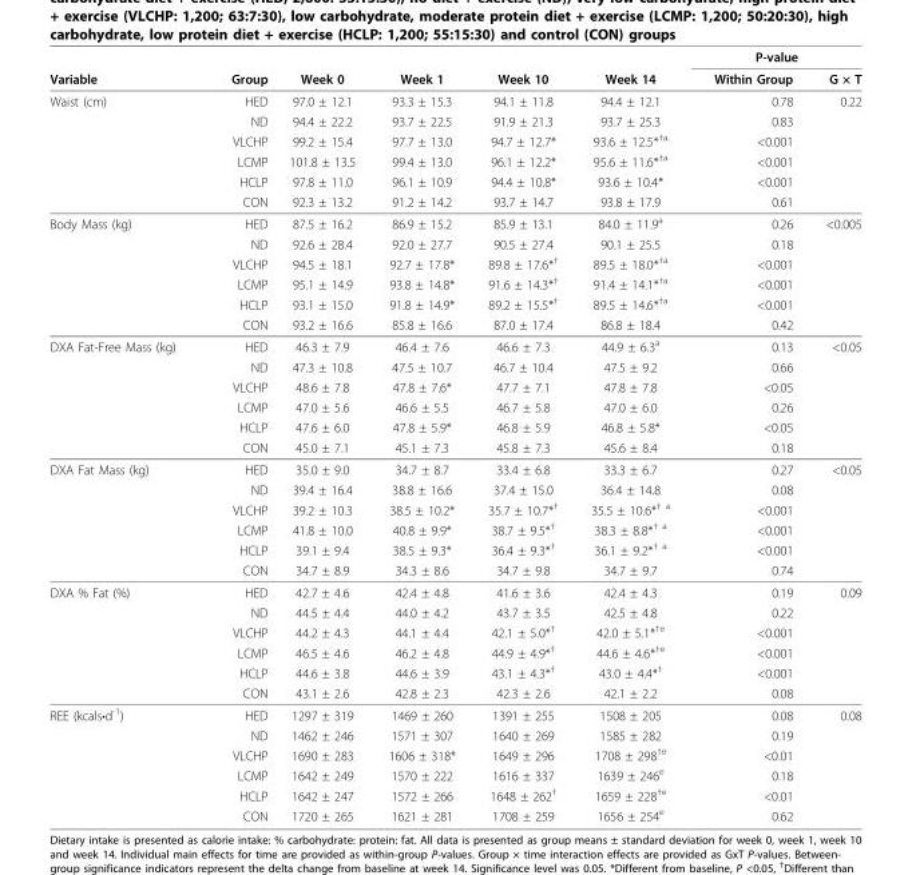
<table><thead><tr><td rowspan="2">Variable</td><td rowspan="2">Group</td><td rowspan="2">Week 0</td><td rowspan="2">Week 1</td><td rowspan="2">Week 10</td><td rowspan="2">Week 14</td><td colspan="2">P-value</td></tr><tr><td>Within Group</td><td>G × T</td></tr></thead><tbody><tr><td rowspan="6">Waist (cm)</td><td>HED</td><td>97.0 ± 12.1</td><td>93.3 ± 15.3</td><td>94.1 ± 11.8</td><td>94.4 ± 12.1</td><td>0.78</td><td>0.22</td></tr><tr><td>ND</td><td>94.4 ± 22.2</td><td>93.7 ± 22.5</td><td>91.9 ± 21.3</td><td>93.7 ± 25.3</td><td>0.83</td><td></td></tr><tr><td>VLCHP</td><td>99.2 ± 15.4</td><td>97.7 ± 13.0</td><td>94.7 ± 12.7*</td><td>93.6 ± 12.5*<sup>†a</sup></td><td>&lt;0.001</td><td></td></tr><tr><td>LCMP</td><td>101.8 ± 13.5</td><td>99.4 ± 13.0</td><td>96.1 ± 12.2*</td><td>95.6 ± 11.6*<sup>†a</sup></td><td>&lt;0.001</td><td></td></tr><tr><td>HCLP</td><td>97.8 ± 11.0</td><td>96.1 ± 10.9</td><td>94.4 ± 10.8*</td><td>93.6 ± 10.4*</td><td>&lt;0.001</td><td></td></tr><tr><td>CON</td><td>92.3 ± 13.2</td><td>91.2 ± 14.2</td><td>93.7 ± 14.7</td><td>93.8 ± 17.9</td><td>0.61</td><td></td></tr><tr><td rowspan="6">Body Mass (kg)</td><td>HED</td><td>87.5 ± 16.2</td><td>86.9 ± 15.2</td><td>85.9 ± 13.1</td><td>84.0 ± 11.9<sup>a</sup></td><td>0.26</td><td>&lt;0.005</td></tr><tr><td>ND</td><td>92.6 ± 28.4</td><td>92.0 ± 27.7</td><td>90.5 ± 27.4</td><td>90.1 ± 25.5</td><td>0.18</td><td></td></tr><tr><td>VLCHP</td><td>94.5 ± 18.1</td><td>92.7 ± 17.8*</td><td>89.8 ± 17.6*<sup>†</sup></td><td>89.5 ± 18.0*<sup>†a</sup></td><td>&lt;0.001</td><td></td></tr><tr><td>LCMP</td><td>95.1 ± 14.9</td><td>93.8 ± 14.8*</td><td>91.6 ± 14.3*<sup>†</sup></td><td>91.4 ± 14.1*<sup>†a</sup></td><td>&lt;0.001</td><td></td></tr><tr><td>HCLP</td><td>93.1 ± 15.0</td><td>91.8 ± 14.9*</td><td>89.2 ± 15.5*<sup>†</sup></td><td>89.5 ± 14.6*<sup>†a</sup></td><td>&lt;0.001</td><td></td></tr><tr><td>CON</td><td>93.2 ± 16.6</td><td>85.8 ± 16.6</td><td>87.0 ± 17.4</td><td>86.8 ± 18.4</td><td>0.42</td><td></td></tr><tr><td rowspan="6">DXA Fat-Free Mass (kg)</td><td>HED</td><td>46.3 ± 7.9</td><td>46.4 ± 7.6</td><td>46.6 ± 7.3</td><td>44.9 ± 6.3<sup>a</sup></td><td>0.13</td><td>&lt;0.05</td></tr><tr><td>ND</td><td>47.3 ± 10.8</td><td>47.5 ± 10.7</td><td>46.7 ± 10.4</td><td>47.5 ± 9.2</td><td>0.66</td><td></td></tr><tr><td>VLCHP</td><td>48.6 ± 7.8</td><td>47.8 ± 7.6*</td><td>47.7 ± 7.1</td><td>47.8 ± 7.8</td><td>&lt;0.05</td><td></td></tr><tr><td>LCMP</td><td>47.0 ± 5.6</td><td>46.6 ± 5.5</td><td>46.7 ± 5.8</td><td>47.0 ± 6.0</td><td>0.26</td><td></td></tr><tr><td>HCLP</td><td>47.6 ± 6.0</td><td>47.8 ± 5.9*</td><td>46.8 ± 5.9</td><td>46.8 ± 5.8*</td><td>&lt;0.05</td><td></td></tr><tr><td>CON</td><td>45.0 ± 7.1</td><td>45.1 ± 7.3</td><td>45.8 ± 7.3</td><td>45.6 ± 8.4</td><td>0.18</td><td></td></tr><tr><td rowspan="6">DXA Fat Mass (kg)</td><td>HED</td><td>35.0 ± 9.0</td><td>34.7 ± 8.7</td><td>33.4 ± 6.8</td><td>33.3 ± 6.7</td><td>0.27</td><td>&lt;0.05</td></tr><tr><td>ND</td><td>39.4 ± 16.4</td><td>38.8 ± 16.6</td><td>37.4 ± 15.0</td><td>36.4 ± 14.8</td><td>0.08</td><td></td></tr><tr><td>VLCHP</td><td>39.2 ± 10.3</td><td>38.5 ± 10.2*</td><td>35.7 ± 10.7*<sup>†</sup></td><td>35.5 ± 10.6*<sup>† a</sup></td><td>&lt;0.001</td><td></td></tr><tr><td>LCMP</td><td>41.8 ± 10.0</td><td>40.8 ± 9.9*</td><td>38.7 ± 9.5*<sup>†</sup></td><td>38.3 ± 8.8*<sup>† a</sup></td><td>&lt;0.001</td><td></td></tr><tr><td>HCLP</td><td>39.1 ± 9.4</td><td>38.5 ± 9.3*</td><td>36.4 ± 9.3*<sup>†</sup></td><td>36.1 ± 9.2*<sup>† a</sup></td><td>&lt;0.001</td><td></td></tr><tr><td>CON</td><td>34.7 ± 8.9</td><td>34.3 ± 8.6</td><td>34.7 ± 9.8</td><td>34.7 ± 9.7</td><td>0.74</td><td></td></tr><tr><td rowspan="6">DXA % Fat (%)</td><td>HED</td><td>42.7 ± 4.6</td><td>42.4 ± 4.8</td><td>41.6 ± 3.6</td><td>42.4 ± 4.3</td><td>0.19</td><td>0.09</td></tr><tr><td>ND</td><td>44.5 ± 4.4</td><td>44.0 ± 4.2</td><td>43.7 ± 3.5</td><td>42.5 ± 4.8</td><td>0.22</td><td></td></tr><tr><td>VLCHP</td><td>44.2 ± 4.3</td><td>44.1 ± 4.4</td><td>42.1 ± 5.0*<sup>†</sup></td><td>42.0 ± 5.1*<sup>†e</sup></td><td>&lt;0.001</td><td></td></tr><tr><td>LCMP</td><td>46.5 ± 4.6</td><td>46.2 ± 4.8</td><td>44.9 ± 4.9*<sup>†</sup></td><td>44.6 ± 4.6*<sup>†e</sup></td><td>&lt;0.001</td><td></td></tr><tr><td>HCLP</td><td>44.6 ± 3.8</td><td>44.6 ± 3.9</td><td>43.1 ± 4.3*<sup>†</sup></td><td>43.0 ± 4.4*<sup>†</sup></td><td>&lt;0.001</td><td></td></tr><tr><td>CON</td><td>43.1 ± 2.6</td><td>42.8 ± 2.3</td><td>42.3 ± 2.6</td><td>42.1 ± 2.2</td><td>0.08</td><td></td></tr><tr><td rowspan="6">REE (kcals•d<sup>-1</sup>)</td><td>HED</td><td>1297 ± 319</td><td>1469 ± 260</td><td>1391 ± 255</td><td>1508 ± 205</td><td>0.08</td><td>0.08</td></tr><tr><td>ND</td><td>1462 ± 246</td><td>1571 ± 307</td><td>1640 ± 269</td><td>1585 ± 282</td><td>0.19</td><td></td></tr><tr><td>VLCHP</td><td>1690 ± 283</td><td>1606 ± 318*</td><td>1649 ± 296</td><td>1708 ± 298<sup>†e</sup></td><td>&lt;0.01</td><td></td></tr><tr><td>LCMP</td><td>1642 ± 249</td><td>1570 ± 222</td><td>1616 ± 337</td><td>1639 ± 246<sup>e</sup></td><td>0.18</td><td></td></tr><tr><td>HCLP</td><td>1642 ± 247</td><td>1572 ± 266</td><td>1648 ± 262<sup>†</sup></td><td>1659 ± 228<sup>†e</sup></td><td>&lt;0.01</td><td></td></tr><tr><td>CON</td><td>1720 ± 265</td><td>1621 ± 281</td><td>1708 ± 259</td><td>1656 ± 254<sup>e</sup></td><td>0.62</td><td></td></tr></tbody></table>